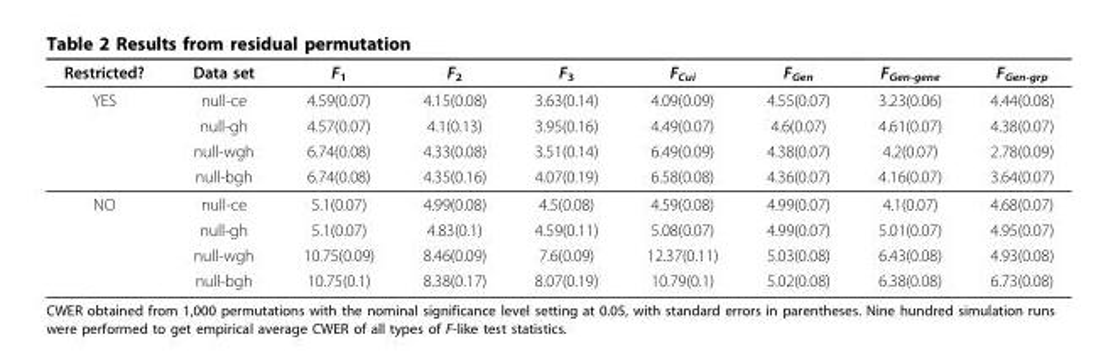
<table><thead><tr><td>Restricted?</td><td>Data set</td><td>F<sub>1</sub></td><td>F<sub>2</sub></td><td>F<sub>3</sub></td><td>F<sub>Cui</sub></td><td>F<sub>Gen</sub></td><td>F<sub>Gen-gene</sub></td><td>F<sub>Gen-grp</sub></td></tr></thead><tbody><tr><td rowspan="4">YES</td><td>null-ce</td><td>4.59(0.07)</td><td>4.15(0.08)</td><td>3.63(0.14)</td><td>4.09(0.09)</td><td>4.55(0.07)</td><td>3.23(0.06)</td><td>4.44(0.08)</td></tr><tr><td>null-gh</td><td>4.57(0.07)</td><td>4.1(0.13)</td><td>3.95(0.16)</td><td>4.49(0.07)</td><td>4.6(0.07)</td><td>4.61(0.07)</td><td>4.38(0.07)</td></tr><tr><td>null-wgh</td><td>6.74(0.08)</td><td>4.33(0.08)</td><td>3.51(0.14)</td><td>6.49(0.09)</td><td>4.38(0.07)</td><td>4.2(0.07)</td><td>2.78(0.09)</td></tr><tr><td>null-bgh</td><td>6.74(0.08)</td><td>4.35(0.16)</td><td>4.07(0.19)</td><td>6.58(0.08)</td><td>4.36(0.07)</td><td>4.16(0.07)</td><td>3.64(0.07)</td></tr><tr><td rowspan="4">NO</td><td>null-ce</td><td>5.1(0.07)</td><td>4.99(0.08)</td><td>4.5(0.08)</td><td>4.59(0.08)</td><td>4.99(0.07)</td><td>4.1(0.07)</td><td>4.68(0.07)</td></tr><tr><td>null-gh</td><td>5.1(0.07)</td><td>4.83(0.1)</td><td>4.59(0.11)</td><td>5.08(0.07)</td><td>4.99(0.07)</td><td>5.01(0.07)</td><td>4.95(0.07)</td></tr><tr><td>null-wgh</td><td>10.75(0.09)</td><td>8.46(0.09)</td><td>7.6(0.09)</td><td>12.37(0.11)</td><td>5.03(0.08)</td><td>6.43(0.08)</td><td>4.93(0.08)</td></tr><tr><td>null-bgh</td><td>10.75(0.1)</td><td>8.38(0.17)</td><td>8.07(0.19)</td><td>10.79(0.1)</td><td>5.02(0.08)</td><td>6.38(0.08)</td><td>6.73(0.08)</td></tr></tbody></table>